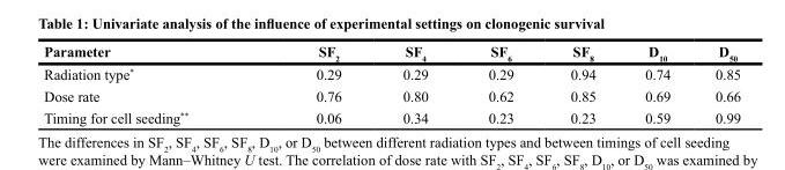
<table><thead><tr><td>Parameter</td><td>SF<sub>2</sub></td><td>SF<sub>4</sub></td><td>SF<sub>6</sub></td><td>SF<sub>8</sub></td><td>D<sub>10</sub></td><td>D<sub>50</sub></td></tr></thead><tbody><tr><td>Radiation type*</td><td>0.29</td><td>0.29</td><td>0.29</td><td>0.94</td><td>0.74</td><td>0.85</td></tr><tr><td>Dose rate</td><td>0.76</td><td>0.80</td><td>0.62</td><td>0.85</td><td>0.69</td><td>0.66</td></tr><tr><td>Timing for cell seeding**</td><td>0.06</td><td>0.34</td><td>0.23</td><td>0.23</td><td>0.59</td><td>0.99</td></tr></tbody></table>